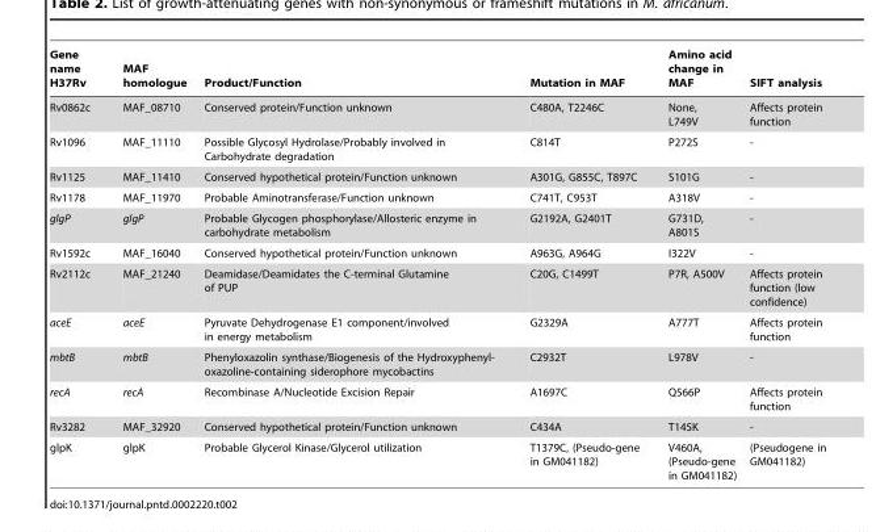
<table><thead><tr><td>Gene name H37Rv</td><td>MAF homologue</td><td>Product/Function</td><td>Mutation in MAF</td><td>Amino acid change in MAF</td><td>SIFT analysis</td></tr></thead><tbody><tr><td>Rv0862c</td><td>MAF_08710</td><td>Conserved protein/Function unknown</td><td>C480A, T2246C</td><td>None, L749V</td><td>Affects protein function</td></tr><tr><td>Rv1096</td><td>MAF_11110</td><td>Possible Glycosyl Hydrolase/Probably involved in Carbohydrate degradation</td><td>C814T</td><td>P272S</td><td>-</td></tr><tr><td>Rv1125</td><td>MAF_11410</td><td>Conserved hypothetical protein/Function unknown</td><td>A301G, G855C, T897C</td><td>S101G</td><td>-</td></tr><tr><td>Rv1178</td><td>MAF_11970</td><td>Probable Aminotransferase/Function unknown</td><td>C741T, C953T</td><td>A318V</td><td>-</td></tr><tr><td>glgP</td><td>glgP</td><td>Probable Glycogen phosphorylase/Allosteric enzyme in carbohydrate metabolism</td><td>G2192A, G2401T</td><td>G731D, A801S</td><td>-</td></tr><tr><td>Rv1592c</td><td>MAF_16040</td><td>Conserved hypothetical protein/Function unknown</td><td>A963G, A964G</td><td>I322V</td><td>-</td></tr><tr><td>Rv2112c</td><td>MAF_21240</td><td>Deamidase/Deamidates the C-terminal Glutamine of PUP</td><td>C20G, C1499T</td><td>P7R, A500V</td><td>Affects protein function (low confidence)</td></tr><tr><td>aceE</td><td>aceE</td><td>Pyruvate Dehydrogenase E1 component/involved in energy metabolism</td><td>G2329A</td><td>A777T</td><td>Affects protein function</td></tr><tr><td>mbtB</td><td>mbtB</td><td>Phenyloxazolin synthase/Biogenesis of the Hydroxyphenyl- oxazoline-containing siderophore mycobactins</td><td>C2932T</td><td>L978V</td><td>-</td></tr><tr><td>recA</td><td>recA</td><td>Recombinase A/Nucleotide Excision Repair</td><td>A1697C</td><td>Q566P</td><td>Affects protein function</td></tr><tr><td>Rv3282</td><td>MAF_32920</td><td>Conserved hypothetical protein/Function unknown</td><td>C434A</td><td>T145K</td><td>-</td></tr><tr><td>glpK</td><td>glpK</td><td>Probable Glycerol Kinase/Glycerol utilization</td><td>T1379C, (Pseudo-gene in GM041182)</td><td>V460A, (Pseudo-gene in GM041182)</td><td>(Pseudogene in GM041182)</td></tr></tbody></table>